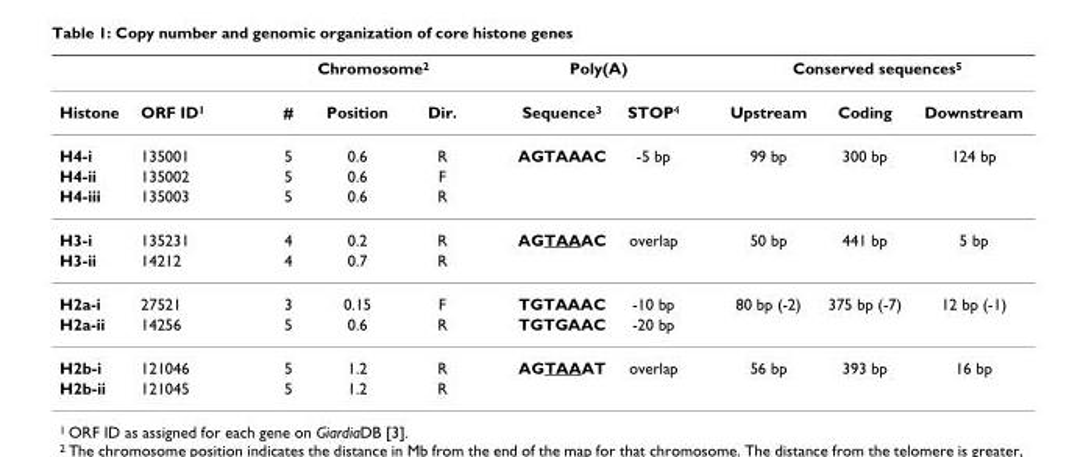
<table><thead><tr><td rowspan="2">Histone</td><td rowspan="2">ORF ID1</td><td colspan="3">Chromosome2</td><td colspan="2">Poly(A)</td><td colspan="3">Conserved sequences5</td></tr><tr><td>#</td><td>Position</td><td>Dir.</td><td>Sequence3</td><td>STOP4</td><td>Upstream</td><td>Coding</td><td>Downstream</td></tr></thead><tbody><tr><td>H4-i</td><td>135001</td><td>5</td><td>0.6</td><td>R</td><td>AGTAAAC</td><td>-5 bp</td><td>99 bp</td><td>300 bp</td><td>124 bp</td></tr><tr><td>H4-ii</td><td>135002</td><td>5</td><td>0.6</td><td>F</td><td></td><td></td><td></td><td></td><td></td></tr><tr><td>H4-iii</td><td>135003</td><td>5</td><td>0.6</td><td>R</td><td></td><td></td><td></td><td></td><td></td></tr><tr><td>H3-i</td><td>135231</td><td>4</td><td>0.2</td><td>R</td><td>AGTAAAC</td><td>overlap</td><td>50 bp</td><td>441 bp</td><td>5 bp</td></tr><tr><td>H3-ii</td><td>14212</td><td>4</td><td>0.7</td><td>R</td><td></td><td></td><td></td><td></td><td></td></tr><tr><td>H2a-i</td><td>27521</td><td>3</td><td>0.15</td><td>F</td><td>TGTAAAC</td><td>-10 bp</td><td>80 bp (-2)</td><td>375 bp (-7)</td><td>12 bp (-1)</td></tr><tr><td>H2a-ii</td><td>14256</td><td>5</td><td>0.6</td><td>R</td><td>TGTGAAC</td><td>-20 bp</td><td></td><td></td><td></td></tr><tr><td>H2b-i</td><td>121046</td><td>5</td><td>1.2</td><td>R</td><td>AGTAAAT</td><td>overlap</td><td>56 bp</td><td>393 bp</td><td>16 bp</td></tr><tr><td>H2b-ii</td><td>121045</td><td>5</td><td>1.2</td><td>R</td><td></td><td></td><td></td><td></td><td></td></tr></tbody></table>